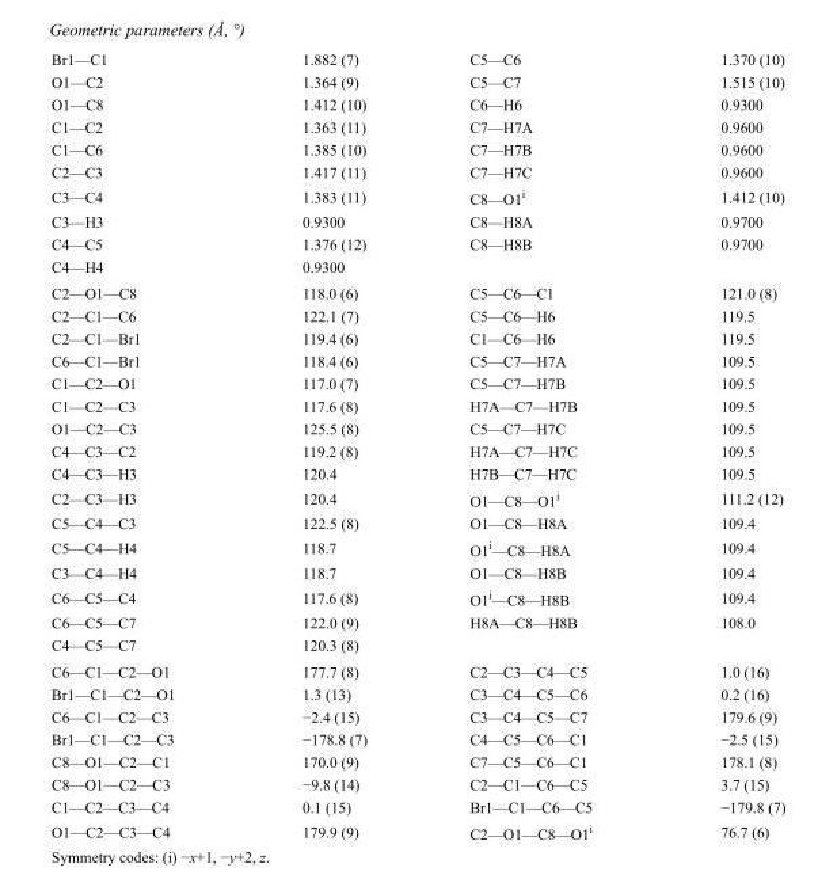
<table><tbody><tr><td>Br1—C1</td><td>1.882 (7)</td><td>C5—C6</td><td>1.370 (10)</td></tr><tr><td>O1—C2</td><td>1.364 (9)</td><td>C5—C7</td><td>1.515 (10)</td></tr><tr><td>O1—C8</td><td>1.412 (10)</td><td>C6—H6</td><td>0.9300</td></tr><tr><td>C1—C2</td><td>1.363 (11)</td><td>C7—H7A</td><td>0.9600</td></tr><tr><td>C1—C6</td><td>1.385 (10)</td><td>C7—H7B</td><td>0.9600</td></tr><tr><td>C2—C3</td><td>1.417 (11)</td><td>C7—H7C</td><td>0.9600</td></tr><tr><td>C3—C4</td><td>1.383 (11)</td><td>C8—O1<sup>i</sup></td><td>1.412 (10)</td></tr><tr><td>C3—H3</td><td>0.9300</td><td>C8—H8A</td><td>0.9700</td></tr><tr><td>C4—C5</td><td>1.376 (12)</td><td>C8—H8B</td><td>0.9700</td></tr><tr><td>C4—H4</td><td>0.9300</td><td></td><td></td></tr><tr><td>C2—O1—C8</td><td>118.0 (6)</td><td>C5—C6—C1</td><td>121.0 (8)</td></tr><tr><td>C2—C1—C6</td><td>122.1 (7)</td><td>C5—C6—H6</td><td>119.5</td></tr><tr><td>C2—C1—Br1</td><td>119.4 (6)</td><td>C1—C6—H6</td><td>119.5</td></tr><tr><td>C6—C1—Br1</td><td>118.4 (6)</td><td>C5—C7—H7A</td><td>109.5</td></tr><tr><td>C1—C2—O1</td><td>117.0 (7)</td><td>C5—C7—H7B</td><td>109.5</td></tr><tr><td>C1—C2—C3</td><td>117.6 (8)</td><td>H7A—C7—H7B</td><td>109.5</td></tr><tr><td>O1—C2—C3</td><td>125.5 (8)</td><td>C5—C7—H7C</td><td>109.5</td></tr><tr><td>C4—C3—C2</td><td>119.2 (8)</td><td>H7A—C7—H7C</td><td>109.5</td></tr><tr><td>C4—C3—H3</td><td>120.4</td><td>H7B—C7—H7C</td><td>109.5</td></tr><tr><td>C2—C3—H3</td><td>120.4</td><td>O1—C8—O1<sup>i</sup></td><td>111.2 (12)</td></tr><tr><td>C5—C4—C3</td><td>122.5 (8)</td><td>O1—C8—H8A</td><td>109.4</td></tr><tr><td>C5—C4—H4</td><td>118.7</td><td>O1<sup>i</sup>—C8—H8A</td><td>109.4</td></tr><tr><td>C3—C4—H4</td><td>118.7</td><td>O1—C8—H8B</td><td>109.4</td></tr><tr><td>C6—C5—C4</td><td>117.6 (8)</td><td>O1<sup>i</sup>—C8—H8B</td><td>109.4</td></tr><tr><td>C6—C5—C7</td><td>122.0 (9)</td><td>H8A—C8—H8B</td><td>108.0</td></tr><tr><td>C4—C5—C7</td><td>120.3 (8)</td><td></td><td></td></tr><tr><td>C6—C1—C2—O1</td><td>177.7 (8)</td><td>C2—C3—C4—C5</td><td>1.0 (16)</td></tr><tr><td>Br1—C1—C2—O1</td><td>1.3 (13)</td><td>C3—C4—C5—C6</td><td>0.2 (16)</td></tr><tr><td>C6—C1—C2—C3</td><td>−2.4 (15)</td><td>C3—C4—C5—C7</td><td>179.6 (9)</td></tr><tr><td>Br1—C1—C2—C3</td><td>−178.8 (7)</td><td>C4—C5—C6—C1</td><td>−2.5 (15)</td></tr><tr><td>C8—O1—C2—C1</td><td>170.0 (9)</td><td>C7—C5—C6—C1</td><td>178.1 (8)</td></tr><tr><td>C8—O1—C2—C3</td><td>−9.8 (14)</td><td>C2—C1—C6—C5</td><td>3.7 (15)</td></tr><tr><td>C1—C2—C3—C4</td><td>0.1 (15)</td><td>Br1—C1—C6—C5</td><td>−179.8 (7)</td></tr><tr><td>O1—C2—C3—C4</td><td>179.9 (9)</td><td>C2—O1—C8—O1<sup>i</sup></td><td>76.7 (6)</td></tr></tbody></table>